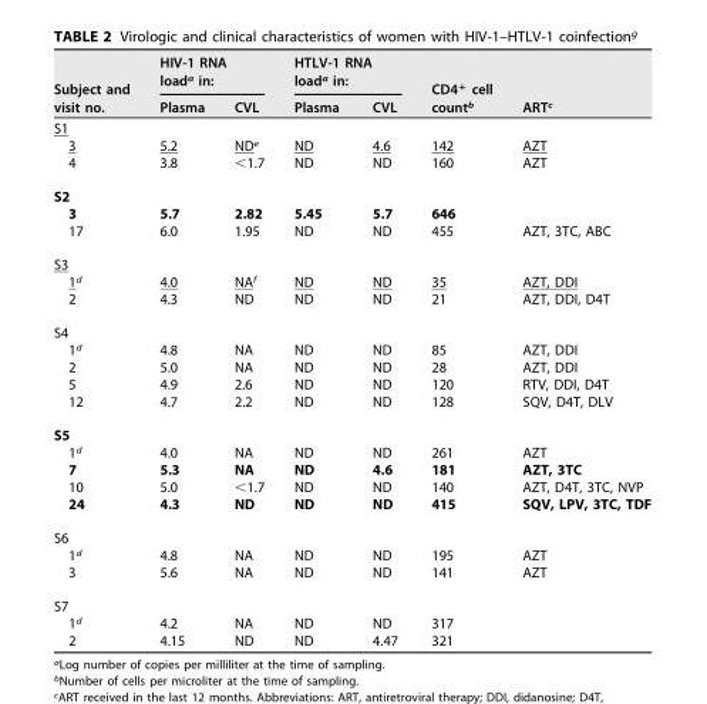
<table><thead><tr><td rowspan="2">Subject and visit no.</td><td colspan="2">HIV-1 RNA load<sup>a</sup> in:</td><td colspan="2">HTLV-1 RNA load<sup>a</sup> in:</td><td rowspan="2">CD4<sup>+</sup> cell count<sup>b</sup></td><td rowspan="2">ART<sup>c</sup></td></tr><tr><td>Plasma</td><td>CVL</td><td>Plasma</td><td>CVL</td></tr></thead><tbody><tr><td colspan="7">S1</td></tr><tr><td>3</td><td>5.2</td><td>ND<sup>e</sup></td><td>ND</td><td>4.6</td><td>142</td><td>AZT</td></tr><tr><td>4</td><td>3.8</td><td>&lt;1.7</td><td>ND</td><td>ND</td><td>160</td><td>AZT</td></tr><tr><td colspan="7">S2</td></tr><tr><td>3</td><td>5.7</td><td>2.82</td><td>5.45</td><td>5.7</td><td>646</td><td></td></tr><tr><td>17</td><td>6.0</td><td>1.95</td><td>ND</td><td>ND</td><td>455</td><td>AZT, 3TC, ABC</td></tr><tr><td colspan="7">S3</td></tr><tr><td>1<sup>d</sup></td><td>4.0</td><td>NA<sup>f</sup></td><td>ND</td><td>ND</td><td>35</td><td>AZT, DDI</td></tr><tr><td>2</td><td>4.3</td><td>ND</td><td>ND</td><td>ND</td><td>21</td><td>AZT, DDI, D4T</td></tr><tr><td colspan="7">S4</td></tr><tr><td>1<sup>d</sup></td><td>4.8</td><td>NA</td><td>ND</td><td>ND</td><td>85</td><td>AZT, DDI</td></tr><tr><td>2</td><td>5.0</td><td>NA</td><td>ND</td><td>ND</td><td>28</td><td>AZT, DDI</td></tr><tr><td>5</td><td>4.9</td><td>2.6</td><td>ND</td><td>ND</td><td>120</td><td>RTV, DDI, D4T</td></tr><tr><td>12</td><td>4.7</td><td>2.2</td><td>ND</td><td>ND</td><td>128</td><td>SQV, D4T, DLV</td></tr><tr><td colspan="7">S5</td></tr><tr><td>1<sup>d</sup></td><td>4.0</td><td>NA</td><td>ND</td><td>ND</td><td>261</td><td>AZT</td></tr><tr><td>7</td><td>5.3</td><td>NA</td><td>ND</td><td>4.6</td><td>181</td><td>AZT, 3TC</td></tr><tr><td>10</td><td>5.0</td><td>&lt;1.7</td><td>ND</td><td>ND</td><td>140</td><td>AZT, D4T, 3TC, NVP</td></tr><tr><td>24</td><td>4.3</td><td>ND</td><td>ND</td><td>ND</td><td>415</td><td>SQV, LPV, 3TC, TDF</td></tr><tr><td colspan="7">S6</td></tr><tr><td>1<sup>d</sup></td><td>4.8</td><td>NA</td><td>ND</td><td>ND</td><td>195</td><td>AZT</td></tr><tr><td>3</td><td>5.6</td><td>NA</td><td>ND</td><td>ND</td><td>141</td><td>AZT</td></tr><tr><td colspan="7">S7</td></tr><tr><td>1<sup>d</sup></td><td>4.2</td><td>NA</td><td>ND</td><td>ND</td><td>317</td><td></td></tr><tr><td>2</td><td>4.15</td><td>ND</td><td>ND</td><td>4.47</td><td>321</td><td></td></tr></tbody></table>